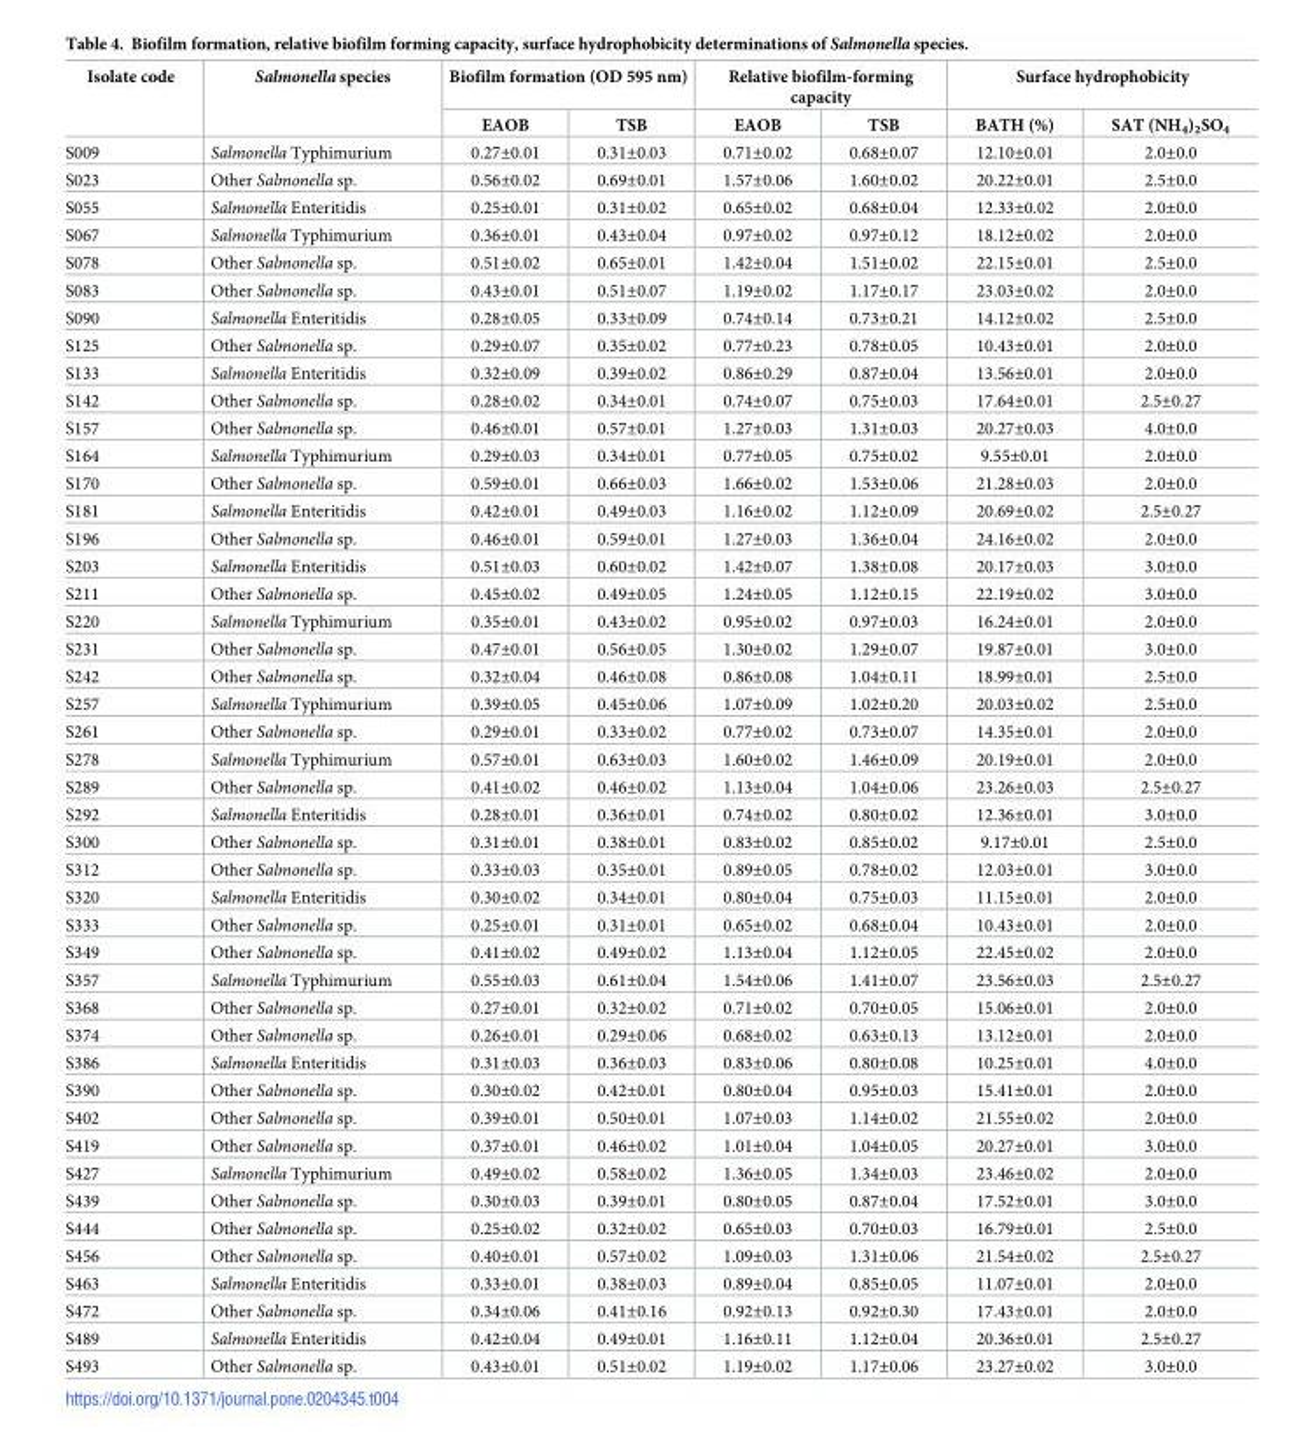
<table><thead><tr><td rowspan="2">Isolate code</td><td rowspan="2">Salmonella species</td><td colspan="2">Biofilm formation (OD 595 nm)</td><td colspan="2">Relative biofilm-forming capacity</td><td colspan="2">Surface hydrophobicity</td></tr><tr><td>EAOB</td><td>TSB</td><td>EAOB</td><td>TSB</td><td>BATH (%)</td><td>SAT (NH<sub>4</sub>)<sub>2</sub>SO<sub>4</sub></td></tr></thead><tbody><tr><td>S009</td><td>Salmonella Typhimurium</td><td>0.27±0.01</td><td>0.31±0.03</td><td>0.71±0.02</td><td>0.68±0.07</td><td>12.10±0.01</td><td>2.0±0.0</td></tr><tr><td>S023</td><td>Other Salmonella sp.</td><td>0.56±0.02</td><td>0.69±0.01</td><td>1.57±0.06</td><td>1.60±0.02</td><td>20.22±0.01</td><td>2.5±0.0</td></tr><tr><td>S055</td><td>Salmonella Enteritidis</td><td>0.25±0.01</td><td>0.31±0.02</td><td>0.65±0.02</td><td>0.68±0.04</td><td>12.33±0.02</td><td>2.0±0.0</td></tr><tr><td>S067</td><td>Salmonella Typhimurium</td><td>0.36±0.01</td><td>0.43±0.04</td><td>0.97±0.02</td><td>0.97±0.12</td><td>18.12±0.02</td><td>2.0±0.0</td></tr><tr><td>S078</td><td>Other Salmonella sp.</td><td>0.51±0.02</td><td>0.65±0.01</td><td>1.42±0.04</td><td>1.51±0.02</td><td>22.15±0.01</td><td>2.5±0.0</td></tr><tr><td>S083</td><td>Other Salmonella sp.</td><td>0.43±0.01</td><td>0.51±0.07</td><td>1.19±0.02</td><td>1.17±0.17</td><td>23.03±0.02</td><td>2.0±0.0</td></tr><tr><td>S090</td><td>Salmonella Enteritidis</td><td>0.28±0.05</td><td>0.33±0.09</td><td>0.74±0.14</td><td>0.73±0.21</td><td>14.12±0.02</td><td>2.5±0.0</td></tr><tr><td>S125</td><td>Other Salmonella sp.</td><td>0.29±0.07</td><td>0.35±0.02</td><td>0.77±0.23</td><td>0.78±0.05</td><td>10.43±0.01</td><td>2.0±0.0</td></tr><tr><td>S133</td><td>Salmonella Enteritidis</td><td>0.32±0.09</td><td>0.39±0.02</td><td>0.86±0.29</td><td>0.87±0.04</td><td>13.56±0.01</td><td>2.0±0.0</td></tr><tr><td>S142</td><td>Other Salmonella sp.</td><td>0.28±0.02</td><td>0.34±0.01</td><td>0.74±0.07</td><td>0.75±0.03</td><td>17.64±0.01</td><td>2.5±0.27</td></tr><tr><td>S157</td><td>Other Salmonella sp.</td><td>0.46±0.01</td><td>0.57±0.01</td><td>1.27±0.03</td><td>1.31±0.03</td><td>20.27±0.03</td><td>4.0±0.0</td></tr><tr><td>S164</td><td>Salmonella Typhimurium</td><td>0.29±0.03</td><td>0.34±0.01</td><td>0.77±0.05</td><td>0.75±0.02</td><td>9.55±0.01</td><td>2.0±0.0</td></tr><tr><td>S170</td><td>Other Salmonella sp.</td><td>0.59±0.01</td><td>0.66±0.03</td><td>1.66±0.02</td><td>1.53±0.06</td><td>21.28±0.03</td><td>2.0±0.0</td></tr><tr><td>S181</td><td>Salmonella Enteritidis</td><td>0.42±0.01</td><td>0.49±0.03</td><td>1.16±0.02</td><td>1.12±0.09</td><td>20.69±0.02</td><td>2.5±0.27</td></tr><tr><td>S196</td><td>Other Salmonella sp.</td><td>0.46±0.01</td><td>0.59±0.01</td><td>1.27±0.03</td><td>1.36±0.04</td><td>24.16±0.02</td><td>2.0±0.0</td></tr><tr><td>S203</td><td>Salmonella Enteritidis</td><td>0.51±0.03</td><td>0.60±0.02</td><td>1.42±0.07</td><td>1.38±0.08</td><td>20.17±0.03</td><td>3.0±0.0</td></tr><tr><td>S211</td><td>Other Salmonella sp.</td><td>0.45±0.02</td><td>0.49±0.05</td><td>1.24±0.05</td><td>1.12±0.15</td><td>22.19±0.02</td><td>3.0±0.0</td></tr><tr><td>S220</td><td>Salmonella Typhimurium</td><td>0.35±0.01</td><td>0.43±0.02</td><td>0.95±0.02</td><td>0.97±0.03</td><td>16.24±0.01</td><td>2.0±0.0</td></tr><tr><td>S231</td><td>Other Salmonella sp.</td><td>0.47±0.01</td><td>0.56±0.05</td><td>1.30±0.02</td><td>1.29±0.07</td><td>19.87±0.01</td><td>3.0±0.0</td></tr><tr><td>S242</td><td>Other Salmonella sp.</td><td>0.32±0.04</td><td>0.46±0.08</td><td>0.86±0.08</td><td>1.04±0.11</td><td>18.99±0.01</td><td>2.5±0.0</td></tr><tr><td>S257</td><td>Salmonella Typhimurium</td><td>0.39±0.05</td><td>0.45±0.06</td><td>1.07±0.09</td><td>1.02±0.20</td><td>20.03±0.02</td><td>2.5±0.0</td></tr><tr><td>S261</td><td>Other Salmonella sp.</td><td>0.29±0.01</td><td>0.33±0.02</td><td>0.77±0.02</td><td>0.73±0.07</td><td>14.35±0.01</td><td>2.0±0.0</td></tr><tr><td>S278</td><td>Salmonella Typhimurium</td><td>0.57±0.01</td><td>0.63±0.03</td><td>1.60±0.02</td><td>1.46±0.09</td><td>20.19±0.01</td><td>2.0±0.0</td></tr><tr><td>S289</td><td>Other Salmonella sp.</td><td>0.41±0.02</td><td>0.46±0.02</td><td>1.13±0.04</td><td>1.04±0.06</td><td>23.26±0.03</td><td>2.5±0.27</td></tr><tr><td>S292</td><td>Salmonella Enteritidis</td><td>0.28±0.01</td><td>0.36±0.01</td><td>0.74±0.02</td><td>0.80±0.02</td><td>12.36±0.01</td><td>3.0±0.0</td></tr><tr><td>S300</td><td>Other Salmonella sp.</td><td>0.31±0.01</td><td>0.38±0.01</td><td>0.83±0.02</td><td>0.85±0.02</td><td>9.17±0.01</td><td>2.5±0.0</td></tr><tr><td>S312</td><td>Other Salmonella sp.</td><td>0.33±0.03</td><td>0.35±0.01</td><td>0.89±0.05</td><td>0.78±0.02</td><td>12.03±0.01</td><td>3.0±0.0</td></tr><tr><td>S320</td><td>Salmonella Enteritidis</td><td>0.30±0.02</td><td>0.34±0.01</td><td>0.80±0.04</td><td>0.75±0.03</td><td>11.15±0.01</td><td>2.0±0.0</td></tr><tr><td>S333</td><td>Other Salmonella sp.</td><td>0.25±0.01</td><td>0.31±0.01</td><td>0.65±0.02</td><td>0.68±0.04</td><td>10.43±0.01</td><td>2.0±0.0</td></tr><tr><td>S349</td><td>Other Salmonella sp.</td><td>0.41±0.02</td><td>0.49±0.02</td><td>1.13±0.04</td><td>1.12±0.05</td><td>22.45±0.02</td><td>2.0±0.0</td></tr><tr><td>S357</td><td>Salmonella Typhimurium</td><td>0.55±0.03</td><td>0.61±0.04</td><td>1.54±0.06</td><td>1.41±0.07</td><td>23.56±0.03</td><td>2.5±0.27</td></tr><tr><td>S368</td><td>Other Salmonella sp.</td><td>0.27±0.01</td><td>0.32±0.02</td><td>0.71±0.02</td><td>0.70±0.05</td><td>15.06±0.01</td><td>2.0±0.0</td></tr><tr><td>S374</td><td>Other Salmonella sp.</td><td>0.26±0.01</td><td>0.29±0.06</td><td>0.68±0.02</td><td>0.63±0.13</td><td>13.12±0.01</td><td>2.0±0.0</td></tr><tr><td>S386</td><td>Salmonella Enteritidis</td><td>0.31±0.03</td><td>0.36±0.03</td><td>0.83±0.06</td><td>0.80±0.08</td><td>10.25±0.01</td><td>4.0±0.0</td></tr><tr><td>S390</td><td>Other Salmonella sp.</td><td>0.30±0.02</td><td>0.42±0.01</td><td>0.80±0.04</td><td>0.95±0.03</td><td>15.41±0.01</td><td>2.0±0.0</td></tr><tr><td>S402</td><td>Other Salmonella sp.</td><td>0.39±0.01</td><td>0.50±0.01</td><td>1.07±0.03</td><td>1.14±0.02</td><td>21.55±0.02</td><td>2.0±0.0</td></tr><tr><td>S419</td><td>Other Salmonella sp.</td><td>0.37±0.01</td><td>0.46±0.02</td><td>1.01±0.04</td><td>1.04±0.05</td><td>20.27±0.01</td><td>3.0±0.0</td></tr><tr><td>S427</td><td>Salmonella Typhimurium</td><td>0.49±0.02</td><td>0.58±0.02</td><td>1.36±0.05</td><td>1.34±0.03</td><td>23.46±0.02</td><td>2.0±0.0</td></tr><tr><td>S439</td><td>Other Salmonella sp.</td><td>0.30±0.03</td><td>0.39±0.01</td><td>0.80±0.05</td><td>0.87±0.04</td><td>17.52±0.01</td><td>3.0±0.0</td></tr><tr><td>S444</td><td>Other Salmonella sp.</td><td>0.25±0.02</td><td>0.32±0.02</td><td>0.65±0.03</td><td>0.70±0.03</td><td>16.79±0.01</td><td>2.5±0.0</td></tr><tr><td>S456</td><td>Other Salmonella sp.</td><td>0.40±0.01</td><td>0.57±0.02</td><td>1.09±0.03</td><td>1.31±0.06</td><td>21.54±0.02</td><td>2.5±0.27</td></tr><tr><td>S463</td><td>Salmonella Enteritidis</td><td>0.33±0.01</td><td>0.38±0.03</td><td>0.89±0.04</td><td>0.85±0.05</td><td>11.07±0.01</td><td>2.0±0.0</td></tr><tr><td>S472</td><td>Other Salmonella sp.</td><td>0.34±0.06</td><td>0.41±0.16</td><td>0.92±0.13</td><td>0.92±0.30</td><td>17.43±0.01</td><td>2.0±0.0</td></tr><tr><td>S489</td><td>Salmonella Enteritidis</td><td>0.42±0.04</td><td>0.49±0.01</td><td>1.16±0.11</td><td>1.12±0.04</td><td>20.36±0.01</td><td>2.5±0.27</td></tr><tr><td>S493</td><td>Other Salmonella sp.</td><td>0.43±0.01</td><td>0.51±0.02</td><td>1.19±0.02</td><td>1.17±0.06</td><td>23.27±0.02</td><td>3.0±0.0</td></tr></tbody></table>